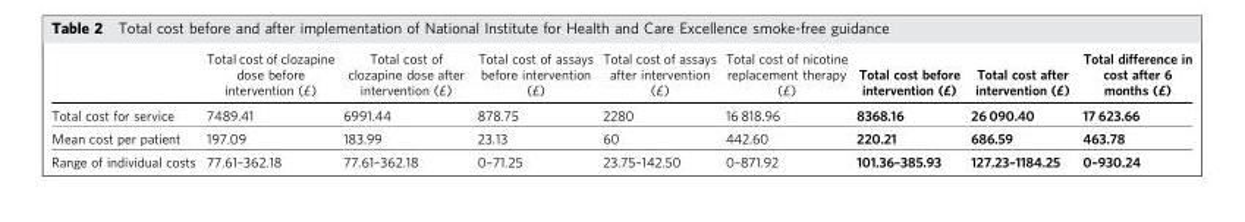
<table><thead><tr><td></td><td>Total cost of clozapine dose before intervention (£)</td><td>Total cost of clozapine dose after intervention (£)</td><td>Total cost of assays before intervention (£)</td><td>Total cost of assays after intervention (£)</td><td>Total cost of nicotine replacement therapy (£)</td><td>Total cost before intervention (£)</td><td>Total cost after intervention (£)</td><td>Total difference in cost after 6 months (£)</td></tr></thead><tbody><tr><td>Total cost for service</td><td>7489.41</td><td>6991.44</td><td>878.75</td><td>2280</td><td>16 818.96</td><td>8368.16</td><td>26 090.40</td><td>17 623.66</td></tr><tr><td>Mean cost per patient</td><td>197.09</td><td>183.99</td><td>23.13</td><td>60</td><td>442.60</td><td>220.21</td><td>686.59</td><td>463.78</td></tr><tr><td>Range of individual costs</td><td>77.61–362.18</td><td>77.61–362.18</td><td>0–71.25</td><td>23.75–142.50</td><td>0–871.92</td><td>101.36–385.93</td><td>127.23–1184.25</td><td>0–930.24</td></tr></tbody></table>